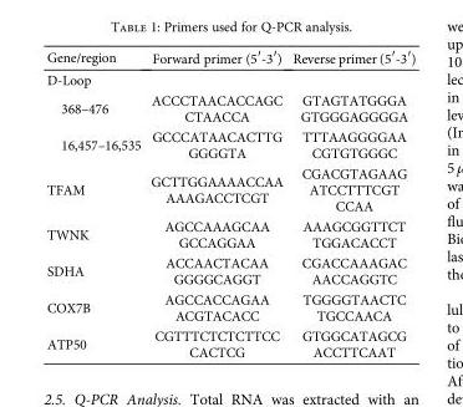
<table><thead><tr><td>Gene/region</td><td>Forward primer (5′-3′)</td><td>Reverse primer (5′-3′)</td></tr></thead><tbody><tr><td colspan="3">D-Loop</td></tr><tr><td>368–476</td><td>ACCCTAACACCAGC CTAACCA</td><td>GTAGTATGGGA GTGGGAGGGGA</td></tr><tr><td>16,457–16,535</td><td>GCCCATAACACTTG GGGGTA</td><td>TTTAAGGGGAA CGTGTGGGC</td></tr><tr><td>TFAM</td><td>GCTTGGAAAACCAA AAAGACCTCGT</td><td>CGACGTAGAAG ATCCTTTCGT CCAA</td></tr><tr><td>TWNK</td><td>AGCCAAAGCAA GCCAGGAA</td><td>AAAGCGGTTCT TGGACACCT</td></tr><tr><td>SDHA</td><td>ACCAACTACAA GGGGCAGGT</td><td>CGACCAAAGAC AACCAGGTC</td></tr><tr><td>COX7B</td><td>AGCCACCAGAA ACGTACACC</td><td>TGGGGTAACTC TGCCAACA</td></tr><tr><td>ATP50</td><td>CGTTTCTCTCTTCC CACTCG</td><td>GTGGCATAGCG ACCTTCAAT</td></tr></tbody></table>